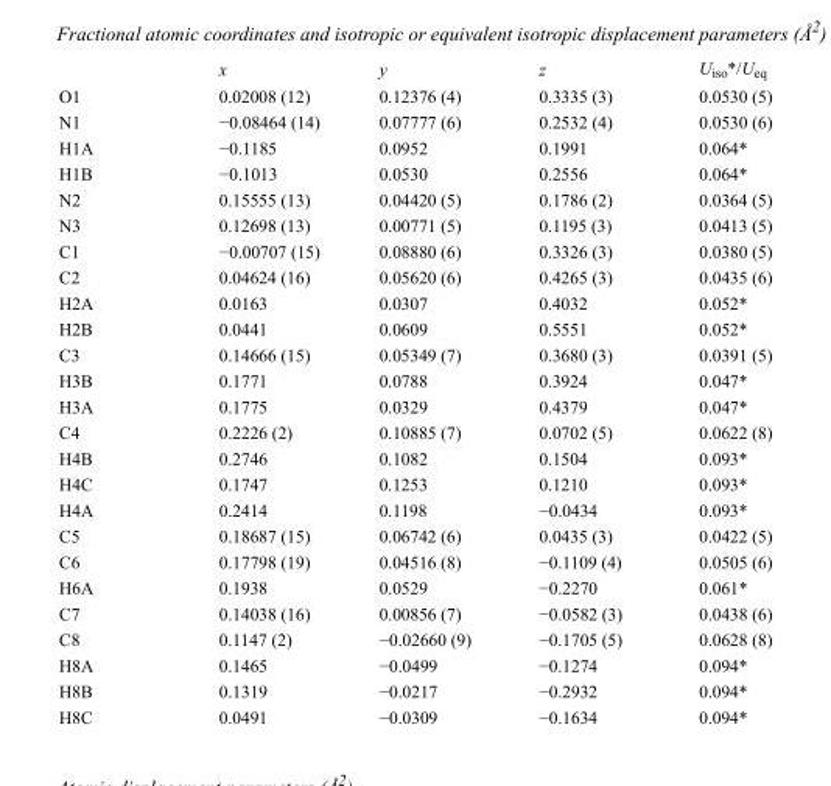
<table><thead><tr><td></td><td>x</td><td>y</td><td>z</td><td>U<sub>iso</sub>*/U<sub>eq</sub></td></tr></thead><tbody><tr><td>O1</td><td>0.02008 (12)</td><td>0.12376 (4)</td><td>0.3335 (3)</td><td>0.0530 (5)</td></tr><tr><td>N1</td><td>−0.08464 (14)</td><td>0.07777 (6)</td><td>0.2532 (4)</td><td>0.0530 (6)</td></tr><tr><td>H1A</td><td>−0.1185</td><td>0.0952</td><td>0.1991</td><td>0.064*</td></tr><tr><td>H1B</td><td>−0.1013</td><td>0.0530</td><td>0.2556</td><td>0.064*</td></tr><tr><td>N2</td><td>0.15555 (13)</td><td>0.04420 (5)</td><td>0.1786 (2)</td><td>0.0364 (5)</td></tr><tr><td>N3</td><td>0.12698 (13)</td><td>0.00771 (5)</td><td>0.1195 (3)</td><td>0.0413 (5)</td></tr><tr><td>C1</td><td>−0.00707 (15)</td><td>0.08880 (6)</td><td>0.3326 (3)</td><td>0.0380 (5)</td></tr><tr><td>C2</td><td>0.04624 (16)</td><td>0.05620 (6)</td><td>0.4265 (3)</td><td>0.0435 (6)</td></tr><tr><td>H2A</td><td>0.0163</td><td>0.0307</td><td>0.4032</td><td>0.052*</td></tr><tr><td>H2B</td><td>0.0441</td><td>0.0609</td><td>0.5551</td><td>0.052*</td></tr><tr><td>C3</td><td>0.14666 (15)</td><td>0.05349 (7)</td><td>0.3680 (3)</td><td>0.0391 (5)</td></tr><tr><td>H3B</td><td>0.1771</td><td>0.0788</td><td>0.3924</td><td>0.047*</td></tr><tr><td>H3A</td><td>0.1775</td><td>0.0329</td><td>0.4379</td><td>0.047*</td></tr><tr><td>C4</td><td>0.2226 (2)</td><td>0.10885 (7)</td><td>0.0702 (5)</td><td>0.0622 (8)</td></tr><tr><td>H4B</td><td>0.2746</td><td>0.1082</td><td>0.1504</td><td>0.093*</td></tr><tr><td>H4C</td><td>0.1747</td><td>0.1253</td><td>0.1210</td><td>0.093*</td></tr><tr><td>H4A</td><td>0.2414</td><td>0.1198</td><td>−0.0434</td><td>0.093*</td></tr><tr><td>C5</td><td>0.18687 (15)</td><td>0.06742 (6)</td><td>0.0435 (3)</td><td>0.0422 (5)</td></tr><tr><td>C6</td><td>0.17798 (19)</td><td>0.04516 (8)</td><td>−0.1109 (4)</td><td>0.0505 (6)</td></tr><tr><td>H6A</td><td>0.1938</td><td>0.0529</td><td>−0.2270</td><td>0.061*</td></tr><tr><td>C7</td><td>0.14038 (16)</td><td>0.00856 (7)</td><td>−0.0582 (3)</td><td>0.0438 (6)</td></tr><tr><td>C8</td><td>0.1147 (2)</td><td>−0.02660 (9)</td><td>−0.1705 (5)</td><td>0.0628 (8)</td></tr><tr><td>H8A</td><td>0.1465</td><td>−0.0499</td><td>−0.1274</td><td>0.094*</td></tr><tr><td>H8B</td><td>0.1319</td><td>−0.0217</td><td>−0.2932</td><td>0.094*</td></tr><tr><td>H8C</td><td>0.0491</td><td>−0.0309</td><td>−0.1634</td><td>0.094*</td></tr></tbody></table>